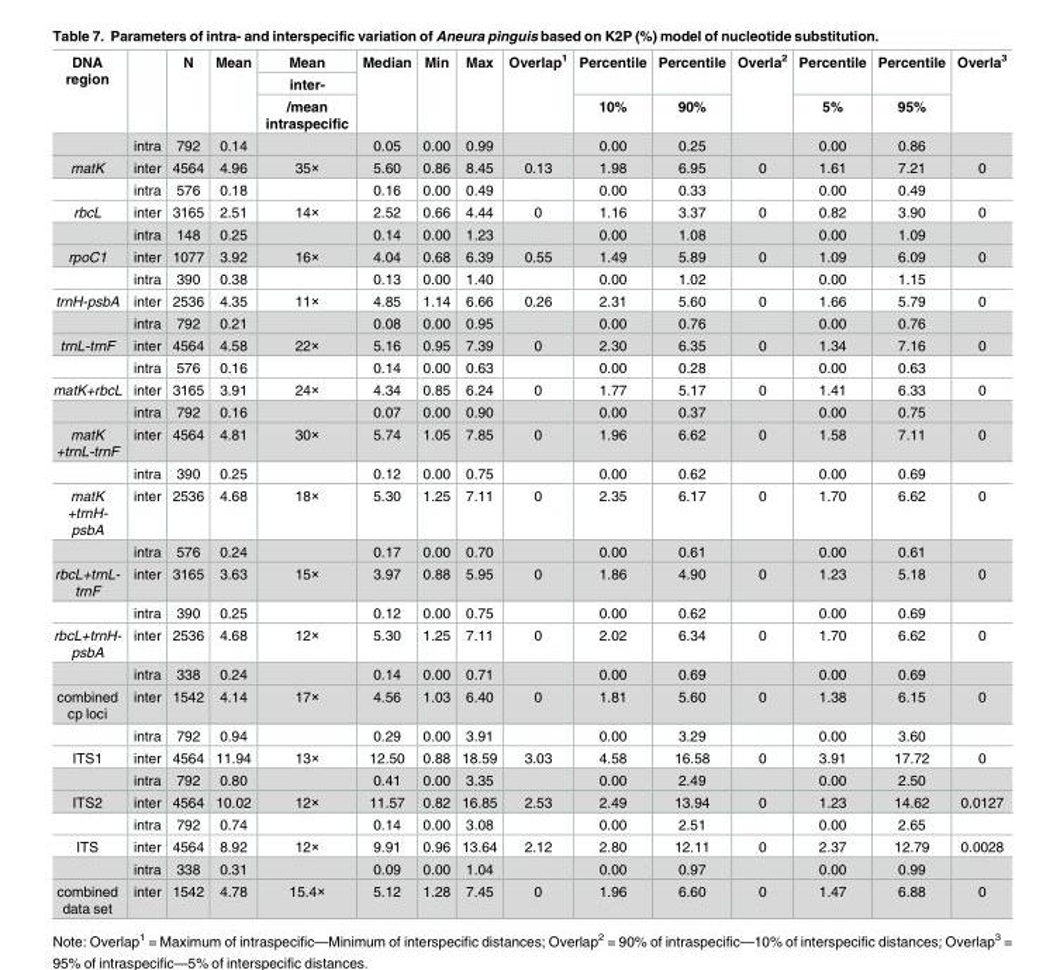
<table><thead><tr><td rowspan="3">DNA region</td><td rowspan="3"></td><td rowspan="3">N</td><td rowspan="3">Mean</td><td rowspan="3">Mean inter- /mean intraspecific</td><td rowspan="3">Median</td><td rowspan="3">Min</td><td rowspan="3">Max</td><td rowspan="3">Overlap<sup>1</sup></td><td rowspan="3">Percentile 10%</td><td rowspan="3">Percentile 90%</td><td rowspan="3">Overla<sup>2</sup></td><td rowspan="3">Percentile 5%</td><td rowspan="3">Percentile 95%</td><td rowspan="3">Overla<sup>3</sup></td></tr><tr></tr><tr></tr></thead><tbody><tr><td></td><td>intra</td><td>792</td><td>0.14</td><td></td><td>0.05</td><td>0.00</td><td>0.99</td><td></td><td>0.00</td><td>0.25</td><td></td><td>0.00</td><td>0.86</td><td></td></tr><tr><td rowspan="2">matK</td><td>inter</td><td>4564</td><td>4.96</td><td>35×</td><td>5.60</td><td>0.86</td><td>8.45</td><td>0.13</td><td>1.98</td><td>6.95</td><td>0</td><td>1.61</td><td>7.21</td><td>0</td></tr><tr><td>intra</td><td>576</td><td>0.18</td><td></td><td>0.16</td><td>0.00</td><td>0.49</td><td></td><td>0.00</td><td>0.33</td><td></td><td>0.00</td><td>0.49</td><td></td></tr><tr><td rowspan="2">rbcL</td><td>inter</td><td>3165</td><td>2.51</td><td>14×</td><td>2.52</td><td>0.66</td><td>4.44</td><td>0</td><td>1.16</td><td>3.37</td><td>0</td><td>0.82</td><td>3.90</td><td>0</td></tr><tr><td>intra</td><td>148</td><td>0.25</td><td></td><td>0.14</td><td>0.00</td><td>1.23</td><td></td><td>0.00</td><td>1.08</td><td></td><td>0.00</td><td>1.09</td><td></td></tr><tr><td rowspan="2">rpoC1</td><td>inter</td><td>1077</td><td>3.92</td><td>16×</td><td>4.04</td><td>0.68</td><td>6.39</td><td>0.55</td><td>1.49</td><td>5.89</td><td>0</td><td>1.09</td><td>6.09</td><td>0</td></tr><tr><td>intra</td><td>390</td><td>0.38</td><td></td><td>0.13</td><td>0.00</td><td>1.40</td><td></td><td>0.00</td><td>1.02</td><td></td><td>0.00</td><td>1.15</td><td></td></tr><tr><td rowspan="2">trnH-psbA</td><td>inter</td><td>2536</td><td>4.35</td><td>11×</td><td>4.85</td><td>1.14</td><td>6.66</td><td>0.26</td><td>2.31</td><td>5.60</td><td>0</td><td>1.66</td><td>5.79</td><td>0</td></tr><tr><td>intra</td><td>792</td><td>0.21</td><td></td><td>0.08</td><td>0.00</td><td>0.95</td><td></td><td>0.00</td><td>0.76</td><td></td><td>0.00</td><td>0.76</td><td></td></tr><tr><td rowspan="2">trnL-trnF</td><td>inter</td><td>4564</td><td>4.58</td><td>22×</td><td>5.16</td><td>0.95</td><td>7.39</td><td>0</td><td>2.30</td><td>6.35</td><td>0</td><td>1.34</td><td>7.16</td><td>0</td></tr><tr><td>intra</td><td>576</td><td>0.16</td><td></td><td>0.14</td><td>0.00</td><td>0.63</td><td></td><td>0.00</td><td>0.28</td><td></td><td>0.00</td><td>0.63</td><td></td></tr><tr><td rowspan="2">matK+rbcL</td><td>inter</td><td>3165</td><td>3.91</td><td>24×</td><td>4.34</td><td>0.85</td><td>6.24</td><td>0</td><td>1.77</td><td>5.17</td><td>0</td><td>1.41</td><td>6.33</td><td>0</td></tr><tr><td>intra</td><td>792</td><td>0.16</td><td></td><td>0.07</td><td>0.00</td><td>0.90</td><td></td><td>0.00</td><td>0.37</td><td></td><td>0.00</td><td>0.75</td><td></td></tr><tr><td rowspan="2">matK +trnL-trnF</td><td>inter</td><td>4564</td><td>4.81</td><td>30×</td><td>5.74</td><td>1.05</td><td>7.85</td><td>0</td><td>1.96</td><td>6.62</td><td>0</td><td>1.58</td><td>7.11</td><td>0</td></tr><tr><td>intra</td><td>390</td><td>0.25</td><td></td><td>0.12</td><td>0.00</td><td>0.75</td><td></td><td>0.00</td><td>0.62</td><td></td><td>0.00</td><td>0.69</td><td></td></tr><tr><td rowspan="2">matK +trnH- psbA</td><td>inter</td><td>2536</td><td>4.68</td><td>18×</td><td>5.30</td><td>1.25</td><td>7.11</td><td>0</td><td>2.35</td><td>6.17</td><td>0</td><td>1.70</td><td>6.62</td><td>0</td></tr><tr><td>intra</td><td>576</td><td>0.24</td><td></td><td>0.17</td><td>0.00</td><td>0.70</td><td></td><td>0.00</td><td>0.61</td><td></td><td>0.00</td><td>0.61</td><td></td></tr><tr><td rowspan="2">rbcL+trnL- trnF</td><td>inter</td><td>3165</td><td>3.63</td><td>15×</td><td>3.97</td><td>0.88</td><td>5.95</td><td>0</td><td>1.86</td><td>4.90</td><td>0</td><td>1.23</td><td>5.18</td><td>0</td></tr><tr><td>intra</td><td>390</td><td>0.25</td><td></td><td>0.12</td><td>0.00</td><td>0.75</td><td></td><td>0.00</td><td>0.62</td><td></td><td>0.00</td><td>0.69</td><td></td></tr><tr><td rowspan="2">rbcL+trnH- psbA</td><td>inter</td><td>2536</td><td>4.68</td><td>12×</td><td>5.30</td><td>1.25</td><td>7.11</td><td>0</td><td>2.02</td><td>6.34</td><td>0</td><td>1.70</td><td>6.62</td><td>0</td></tr><tr><td>intra</td><td>338</td><td>0.24</td><td></td><td>0.14</td><td>0.00</td><td>0.71</td><td></td><td>0.00</td><td>0.69</td><td></td><td>0.00</td><td>0.69</td><td></td></tr><tr><td rowspan="2">combined cp loci</td><td>inter</td><td>1542</td><td>4.14</td><td>17×</td><td>4.56</td><td>1.03</td><td>6.40</td><td>0</td><td>1.81</td><td>5.60</td><td>0</td><td>1.38</td><td>6.15</td><td>0</td></tr><tr><td>intra</td><td>792</td><td>0.94</td><td></td><td>0.29</td><td>0.00</td><td>3.91</td><td></td><td>0.00</td><td>3.29</td><td></td><td>0.00</td><td>3.60</td><td></td></tr><tr><td rowspan="2">ITS1</td><td>inter</td><td>4564</td><td>11.94</td><td>13×</td><td>12.50</td><td>0.88</td><td>18.59</td><td>3.03</td><td>4.58</td><td>16.58</td><td>0</td><td>3.91</td><td>17.72</td><td>0</td></tr><tr><td>intra</td><td>792</td><td>0.80</td><td></td><td>0.41</td><td>0.00</td><td>3.35</td><td></td><td>0.00</td><td>2.49</td><td></td><td>0.00</td><td>2.50</td><td></td></tr><tr><td rowspan="2">ITS2</td><td>inter</td><td>4564</td><td>10.02</td><td>12×</td><td>11.57</td><td>0.82</td><td>16.85</td><td>2.53</td><td>2.49</td><td>13.94</td><td>0</td><td>1.23</td><td>14.62</td><td>0.0127</td></tr><tr><td>intra</td><td>792</td><td>0.74</td><td></td><td>0.14</td><td>0.00</td><td>3.08</td><td></td><td>0.00</td><td>2.51</td><td></td><td>0.00</td><td>2.65</td><td></td></tr><tr><td rowspan="2">ITS</td><td>inter</td><td>4564</td><td>8.92</td><td>12×</td><td>9.91</td><td>0.96</td><td>13.64</td><td>2.12</td><td>2.80</td><td>12.11</td><td>0</td><td>2.37</td><td>12.79</td><td>0.0028</td></tr><tr><td>intra</td><td>338</td><td>0.31</td><td></td><td>0.09</td><td>0.00</td><td>1.04</td><td></td><td>0.00</td><td>0.97</td><td></td><td>0.00</td><td>0.99</td><td></td></tr><tr><td>combined data set</td><td>inter</td><td>1542</td><td>4.78</td><td>15.4×</td><td>5.12</td><td>1.28</td><td>7.45</td><td>0</td><td>1.96</td><td>6.60</td><td>0</td><td>1.47</td><td>6.88</td><td>0</td></tr></tbody></table>